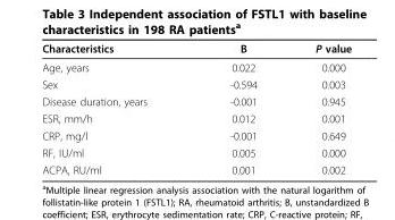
<table><thead><tr><td>Characteristics</td><td>B</td><td>P value</td></tr></thead><tbody><tr><td>Age, years</td><td>0.022</td><td>0.000</td></tr><tr><td>Sex</td><td>-0.594</td><td>0.003</td></tr><tr><td>Disease duration, years</td><td>-0.001</td><td>0.945</td></tr><tr><td>ESR, mm/h</td><td>0.012</td><td>0.001</td></tr><tr><td>CRP, mg/l</td><td>-0.001</td><td>0.649</td></tr><tr><td>RF, IU/ml</td><td>0.005</td><td>0.000</td></tr><tr><td>ACPA, RU/ml</td><td>0.001</td><td>0.002</td></tr></tbody></table>